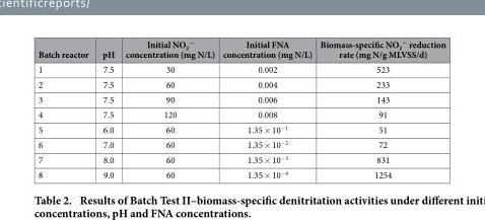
<table><thead><tr><td>Batch reactor</td><td>pH</td><td>Initial NO<sub>2</sub> <sup>−</sup> concentration (mg N/L)</td><td>Initial FNA concentration (mg N/L)</td><td>Biomass-specific NO<sub>2</sub> <sup>−</sup> reduction rate (mg N/g MLVSS/d)</td></tr></thead><tbody><tr><td>1</td><td>7.5</td><td>30</td><td>0.002</td><td>523</td></tr><tr><td>2</td><td>7.5</td><td>60</td><td>0.004</td><td>233</td></tr><tr><td>3</td><td>7.5</td><td>90</td><td>0.006</td><td>143</td></tr><tr><td>4</td><td>7.5</td><td>120</td><td>0.008</td><td>91</td></tr><tr><td>5</td><td>6.0</td><td>60</td><td>1.35 × 10<sup>−1</sup></td><td>51</td></tr><tr><td>6</td><td>7.0</td><td>60</td><td>1.35 × 10<sup>−2</sup></td><td>72</td></tr><tr><td>7</td><td>8.0</td><td>60</td><td>1.35 × 10<sup>−3</sup></td><td>831</td></tr><tr><td>8</td><td>9.0</td><td>60</td><td>1.35 × 10<sup>−4</sup></td><td>1254</td></tr></tbody></table>